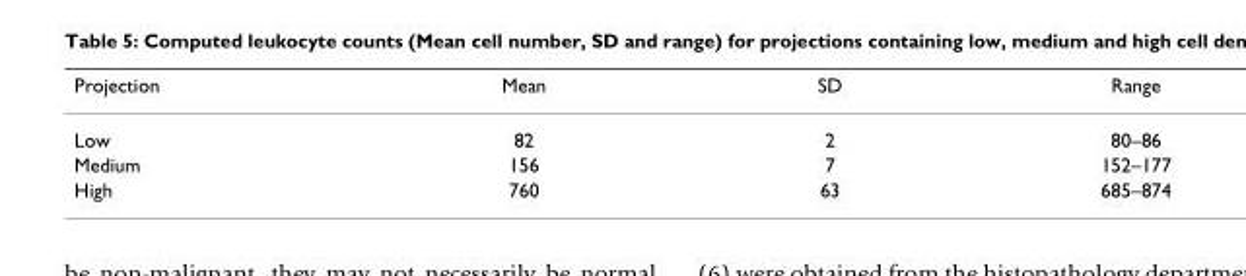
<table><thead><tr><td>Projection</td><td>Mean</td><td>SD</td><td>Range</td></tr></thead><tbody><tr><td>Low</td><td>82</td><td>2</td><td>80–86</td></tr><tr><td>Medium</td><td>156</td><td>7</td><td>152–177</td></tr><tr><td>High</td><td>760</td><td>63</td><td>685–874</td></tr></tbody></table>